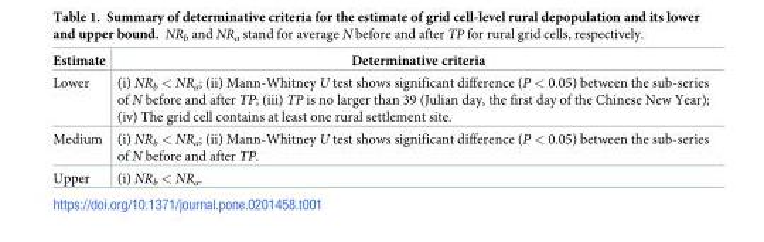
<table><thead><tr><td>Estimate</td><td>Determinative criteria</td></tr></thead><tbody><tr><td>Lower</td><td>(i) NR<sub>b</sub> &lt; NR<sub>a</sub>; (ii) Mann-Whitney U test shows significant difference (P &lt; 0.05) between the sub-series of N before and after TP; (iii) TP is no larger than 39 (Julian day, the first day of the Chinese New Year); (iv) The grid cell contains at least one rural settlement site.</td></tr><tr><td>Medium</td><td>(i) NR<sub>b</sub> &lt; NR<sub>a</sub>; (ii) Mann-Whitney U test shows significant difference (P &lt; 0.05) between the sub-series of N before and after TP.</td></tr><tr><td>Upper</td><td>(i) NR<sub>b</sub> &lt; NR<sub>a</sub>.</td></tr></tbody></table>